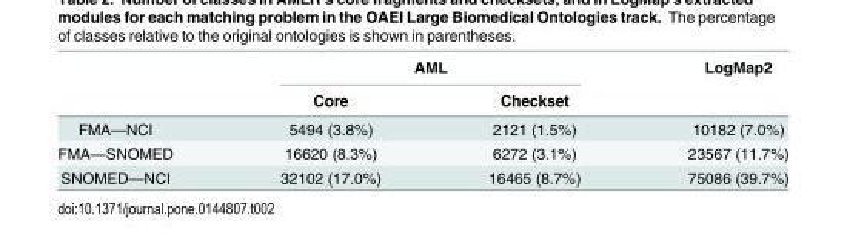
<table><thead><tr><td rowspan="2"></td><td colspan="2">AML</td><td rowspan="2">LogMap2</td></tr><tr><td>Core</td><td>Checkset</td></tr></thead><tbody><tr><td>FMA—NCI</td><td>5494 (3.8%)</td><td>2121 (1.5%)</td><td>10182 (7.0%)</td></tr><tr><td>FMA—SNOMED</td><td>16620 (8.3%)</td><td>6272 (3.1%)</td><td>23567 (11.7%)</td></tr><tr><td>SNOMED—NCI</td><td>32102 (17.0%)</td><td>16465 (8.7%)</td><td>75086 (39.7%)</td></tr></tbody></table>